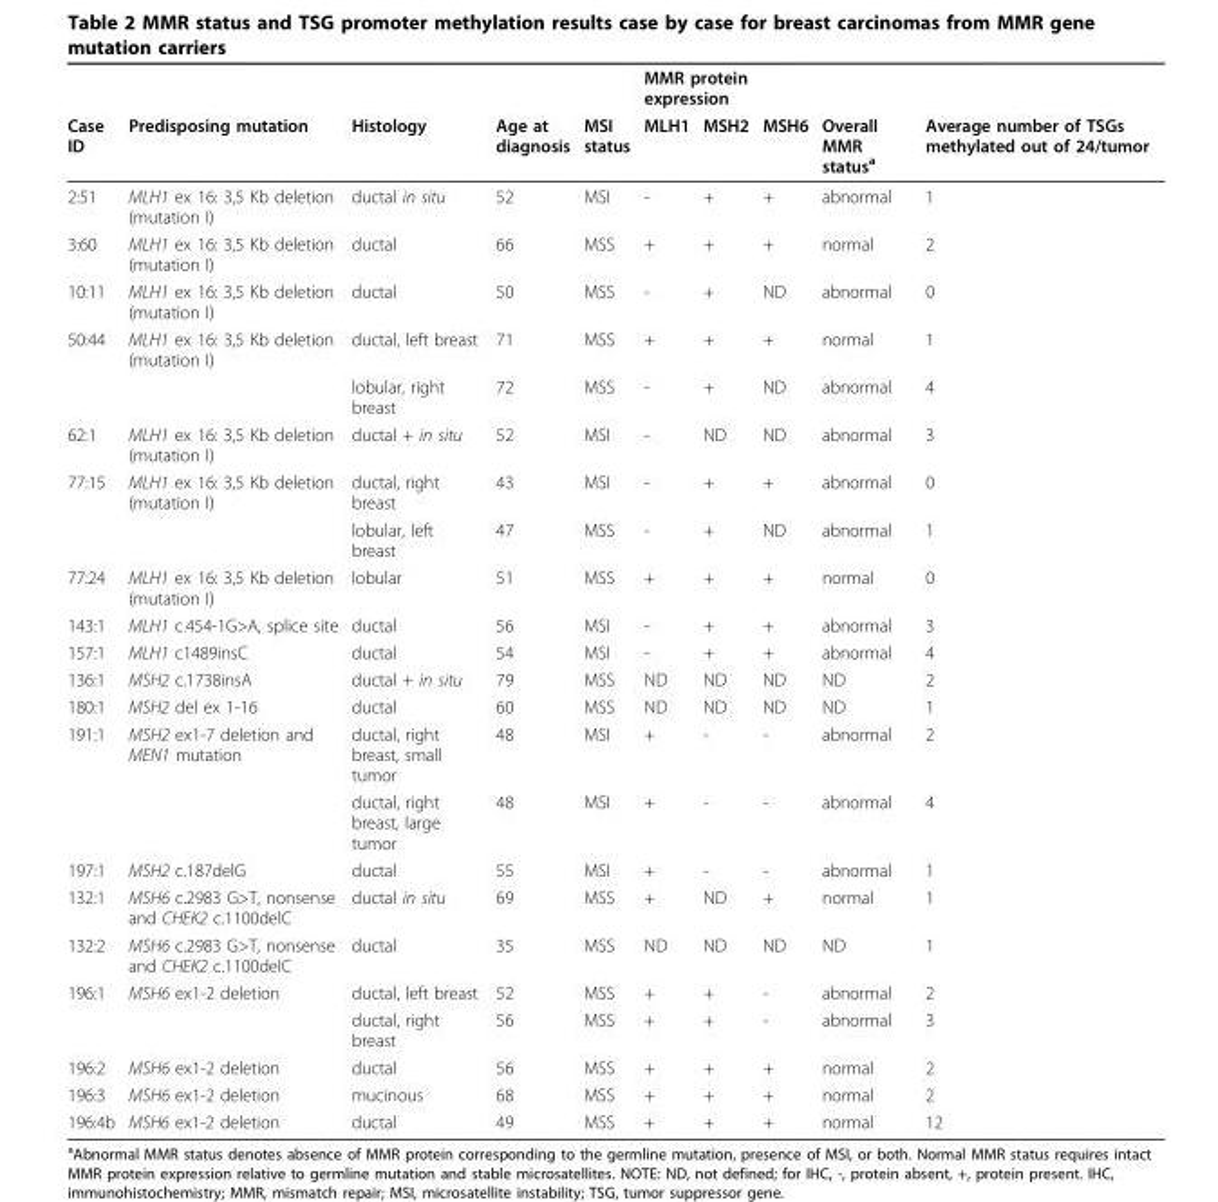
<table><thead><tr><td rowspan="2">Case ID</td><td rowspan="2">Predisposing mutation</td><td rowspan="2">Histology</td><td rowspan="2">Age at diagnosis</td><td rowspan="2">MSI status</td><td colspan="3">MMR protein expression</td><td rowspan="2">Overall MMR status<sup>a</sup></td><td rowspan="2">Average number of TSGs methylated out of 24/tumor</td></tr><tr><td>MLH1</td><td>MSH2</td><td>MSH6</td></tr></thead><tbody><tr><td>2:51</td><td>MLH1 ex 16: 3,5 Kb deletion (mutation I)</td><td>ductal in situ</td><td>52</td><td>MSI</td><td>-</td><td>+</td><td>+</td><td>abnormal</td><td>1</td></tr><tr><td>3:60</td><td>MLH1 ex 16: 3,5 Kb deletion (mutation I)</td><td>ductal</td><td>66</td><td>MSS</td><td>+</td><td>+</td><td>+</td><td>normal</td><td>2</td></tr><tr><td>10:11</td><td>MLH1 ex 16: 3,5 Kb deletion (mutation I)</td><td>ductal</td><td>50</td><td>MSS</td><td>-</td><td>+</td><td>ND</td><td>abnormal</td><td>0</td></tr><tr><td rowspan="2">50:44</td><td>MLH1 ex 16: 3,5 Kb deletion (mutation I)</td><td>ductal, left breast</td><td>71</td><td>MSS</td><td>+</td><td>+</td><td>+</td><td>normal</td><td>1</td></tr><tr><td></td><td>lobular, right breast</td><td>72</td><td>MSS</td><td>-</td><td>+</td><td>ND</td><td>abnormal</td><td>4</td></tr><tr><td>62:1</td><td>MLH1 ex 16: 3,5 Kb deletion (mutation I)</td><td>ductal + in situ</td><td>52</td><td>MSI</td><td>-</td><td>ND</td><td>ND</td><td>abnormal</td><td>3</td></tr><tr><td rowspan="2">77:15</td><td>MLH1 ex 16: 3,5 Kb deletion (mutation I)</td><td>ductal, right breast</td><td>43</td><td>MSI</td><td>-</td><td>+</td><td>+</td><td>abnormal</td><td>0</td></tr><tr><td></td><td>lobular, left breast</td><td>47</td><td>MSS</td><td>-</td><td>+</td><td>ND</td><td>abnormal</td><td>1</td></tr><tr><td>77:24</td><td>MLH1 ex 16: 3,5 Kb deletion (mutation I)</td><td>lobular</td><td>51</td><td>MSS</td><td>+</td><td>+</td><td>+</td><td>normal</td><td>0</td></tr><tr><td>143:1</td><td>MLH1 c.454-1G&gt;A, splice site</td><td>ductal</td><td>56</td><td>MSI</td><td>-</td><td>+</td><td>+</td><td>abnormal</td><td>3</td></tr><tr><td>157:1</td><td>MLH1 c1489insC</td><td>ductal</td><td>54</td><td>MSI</td><td>-</td><td>+</td><td>+</td><td>abnormal</td><td>4</td></tr><tr><td>136:1</td><td>MSH2 c.1738insA</td><td>ductal + in situ</td><td>79</td><td>MSS</td><td>ND</td><td>ND</td><td>ND</td><td>ND</td><td>2</td></tr><tr><td>180:1</td><td>MSH2 del ex 1-16</td><td>ductal</td><td>60</td><td>MSS</td><td>ND</td><td>ND</td><td>ND</td><td>ND</td><td>1</td></tr><tr><td rowspan="2">191:1</td><td>MSH2 ex1-7 deletion and MEN1 mutation</td><td>ductal, right breast, small tumor</td><td>48</td><td>MSI</td><td>+</td><td>-</td><td>-</td><td>abnormal</td><td>2</td></tr><tr><td></td><td>ductal, right breast, large tumor</td><td>48</td><td>MSI</td><td>+</td><td>-</td><td>-</td><td>abnormal</td><td>4</td></tr><tr><td>197:1</td><td>MSH2 c.187delG</td><td>ductal</td><td>55</td><td>MSI</td><td>+</td><td>-</td><td>-</td><td>abnormal</td><td>1</td></tr><tr><td>132:1</td><td>MSH6 c.2983 G&gt;T, nonsense and CHEK2 c.1100delC</td><td>ductal in situ</td><td>69</td><td>MSS</td><td>+</td><td>ND</td><td>+</td><td>normal</td><td>1</td></tr><tr><td>132:2</td><td>MSH6 c.2983 G&gt;T, nonsense and CHEK2 c.1100delC</td><td>ductal</td><td>35</td><td>MSS</td><td>ND</td><td>ND</td><td>ND</td><td>ND</td><td>1</td></tr><tr><td rowspan="2">196:1</td><td>MSH6 ex1-2 deletion</td><td>ductal, left breast</td><td>52</td><td>MSS</td><td>+</td><td>+</td><td>-</td><td>abnormal</td><td>2</td></tr><tr><td></td><td>ductal, right breast</td><td>56</td><td>MSS</td><td>+</td><td>+</td><td>-</td><td>abnormal</td><td>3</td></tr><tr><td>196:2</td><td>MSH6 ex1-2 deletion</td><td>ductal</td><td>56</td><td>MSS</td><td>+</td><td>+</td><td>+</td><td>normal</td><td>2</td></tr><tr><td>196:3</td><td>MSH6 ex1-2 deletion</td><td>mucinous</td><td>68</td><td>MSS</td><td>+</td><td>+</td><td>+</td><td>normal</td><td>2</td></tr><tr><td>196:4b</td><td>MSH6 ex1-2 deletion</td><td>ductal</td><td>49</td><td>MSS</td><td>+</td><td>+</td><td>+</td><td>normal</td><td>12</td></tr></tbody></table>